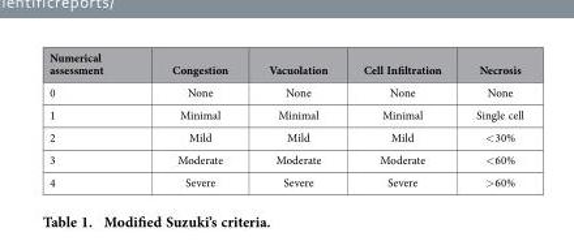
<table><thead><tr><td>Numerical assessment</td><td>Congestion</td><td>Vacuolation</td><td>Cell Infiltration</td><td>Necrosis</td></tr></thead><tbody><tr><td>0</td><td>None</td><td>None</td><td>None</td><td>None</td></tr><tr><td>1</td><td>Minimal</td><td>Minimal</td><td>Minimal</td><td>Single cell</td></tr><tr><td>2</td><td>Mild</td><td>Mild</td><td>Mild</td><td>&lt; 30%</td></tr><tr><td>3</td><td>Moderate</td><td>Moderate</td><td>Moderate</td><td>&lt; 60%</td></tr><tr><td>4</td><td>Severe</td><td>Severe</td><td>Severe</td><td>&gt; 60%</td></tr></tbody></table>